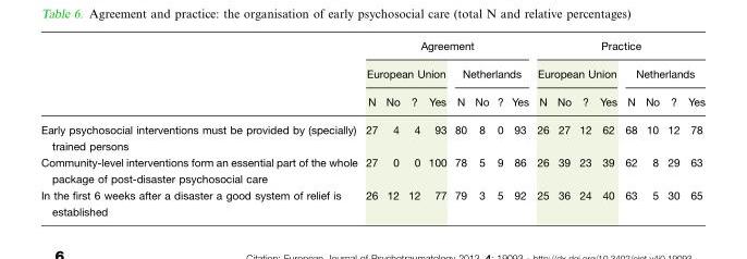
<table><thead><tr><td rowspan="3"></td><td colspan="8">Agreement</td><td colspan="8">Practice</td></tr><tr><td colspan="4">European Union</td><td colspan="4">Netherlands</td><td colspan="4">European Union</td><td colspan="4">Netherlands</td></tr><tr><td>N</td><td>No</td><td>?</td><td>Yes</td><td>N</td><td>No</td><td>?</td><td>Yes</td><td>N</td><td>No</td><td>?</td><td>Yes</td><td>N</td><td>No</td><td>?</td><td>Yes</td></tr></thead><tbody><tr><td>Early psychosocial interventions must be provided by (specially) trained persons</td><td>27</td><td>4</td><td>4</td><td>93</td><td>80</td><td>8</td><td>0</td><td>93</td><td>26</td><td>27</td><td>12</td><td>62</td><td>68</td><td>10</td><td>12</td><td>78</td></tr><tr><td>Community-level interventions form an essential part of the whole package of post-disaster psychosocial care</td><td>27</td><td>0</td><td>0</td><td>100</td><td>78</td><td>5</td><td>9</td><td>86</td><td>26</td><td>39</td><td>23</td><td>39</td><td>62</td><td>8</td><td>29</td><td>63</td></tr><tr><td>In the first 6 weeks after a disaster a good system of relief is established</td><td>26</td><td>12</td><td>12</td><td>77</td><td>79</td><td>3</td><td>5</td><td>92</td><td>25</td><td>36</td><td>24</td><td>40</td><td>63</td><td>5</td><td>30</td><td>65</td></tr></tbody></table>